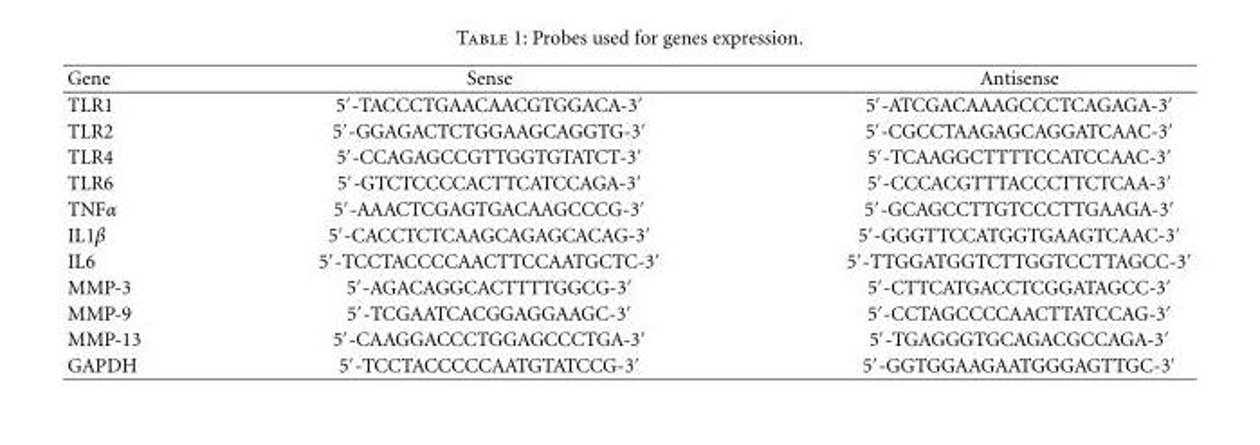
<table><thead><tr><td>Gene</td><td>Sense</td><td>Antisense</td></tr></thead><tbody><tr><td>TLR1</td><td>5′-TACCCTGAACAACGTGGACA-3′</td><td>5′-ATCGACAAAGCCCTCAGAGA-3′</td></tr><tr><td>TLR2</td><td>5′-GGAGACTCTGGAAGCAGGTG-3′</td><td>5′-CGCCTAAGAGCAGGATCAAC-3′</td></tr><tr><td>TLR4</td><td>5′-CCAGAGCCGTTGGTGTATCT-3′</td><td>5′-TCAAGGCTTTTCCATCCAAC-3′</td></tr><tr><td>TLR6</td><td>5′-GTCTCCCCACTTCATCCAGA-3′</td><td>5′-CCCACGTTTACCCTTCTCAA-3′</td></tr><tr><td>TNFα</td><td>5′-AAACTCGAGTGACAAGCCCG-3′</td><td>5′-GCAGCCTTGTCCCTTGAAGA-3′</td></tr><tr><td>IL1β</td><td>5′-CACCTCTCAAGCAGAGCACAG-3′</td><td>5′-GGGTTCCATGGTGAAGTCAAC-3′</td></tr><tr><td>IL6</td><td>5′-TCCTACCCCAACTTCCAATGCTC-3′</td><td>5′-TTGGATGGTCTTGGTCCTTAGCC-3′</td></tr><tr><td>MMP-3</td><td>5′-AGACAGGCACTTTTGGCG-3′</td><td>5′-CTTCATGACCTCGGATAGCC-3′</td></tr><tr><td>MMP-9</td><td>5′-TCGAATCACGGAGGAAGC-3′</td><td>5′-CCTAGCCCCAACTTATCCAG-3′</td></tr><tr><td>MMP-13</td><td>5′-CAAGGACCCTGGAGCCCTGA-3′</td><td>5′-TGAGGGTGCAGACGCCAGA-3′</td></tr><tr><td>GAPDH</td><td>5′-TCCTACCCCCAATGTATCCG-3′</td><td>5′-GGTGGAAGAATGGGAGTTGC-3′</td></tr></tbody></table>